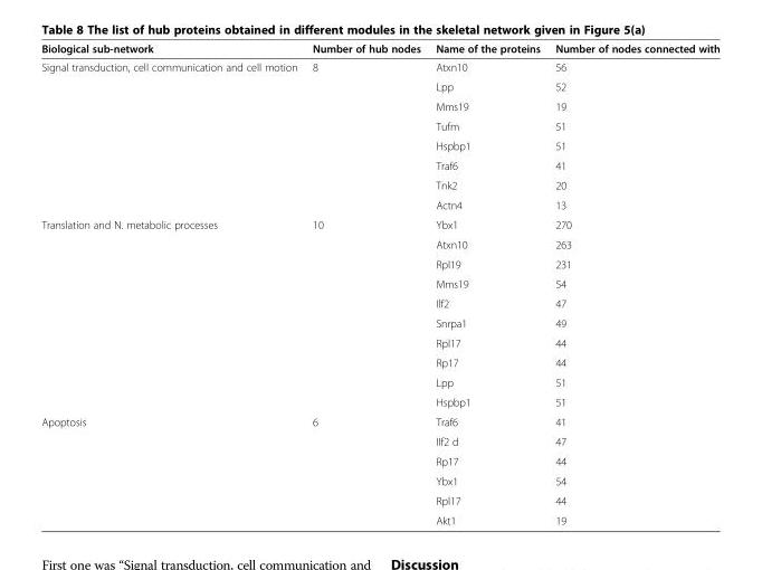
<table><thead><tr><td>Biological sub-network</td><td>Number of hub nodes</td><td>Name of the proteins</td><td>Number of nodes connected with</td></tr></thead><tbody><tr><td rowspan="8">Signal transduction, cell communication and cell motion</td><td rowspan="8">8</td><td>Atxn10</td><td>56</td></tr><tr><td>Lpp</td><td>52</td></tr><tr><td>Mms19</td><td>19</td></tr><tr><td>Tufm</td><td>51</td></tr><tr><td>Hspbp1</td><td>51</td></tr><tr><td>Traf6</td><td>41</td></tr><tr><td>Tnk2</td><td>20</td></tr><tr><td>Actn4</td><td>13</td></tr><tr><td rowspan="10">Translation and N. metabolic processes</td><td rowspan="10">10</td><td>Ybx1</td><td>270</td></tr><tr><td>Atxn10</td><td>263</td></tr><tr><td>Rpl19</td><td>231</td></tr><tr><td>Mms19</td><td>54</td></tr><tr><td>Ilf2</td><td>47</td></tr><tr><td>Snrpa1</td><td>49</td></tr><tr><td>Rpl17</td><td>44</td></tr><tr><td>Rp17</td><td>44</td></tr><tr><td>Lpp</td><td>51</td></tr><tr><td>Hspbp1</td><td>51</td></tr><tr><td rowspan="6">Apoptosis</td><td rowspan="6">6</td><td>Traf6</td><td>41</td></tr><tr><td>IIf2 d</td><td>47</td></tr><tr><td>Rp17</td><td>44</td></tr><tr><td>Ybx1</td><td>54</td></tr><tr><td>Rpl17</td><td>44</td></tr><tr><td>Akt1</td><td>19</td></tr></tbody></table>